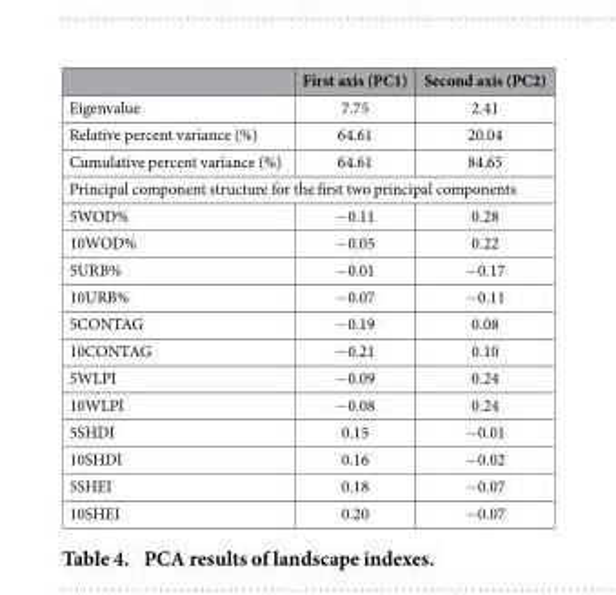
<table><thead><tr><td></td><td>First axis (PC1)</td><td>Second axis (PC2)</td></tr></thead><tbody><tr><td>Eigenvalue</td><td>7.75</td><td>2.41</td></tr><tr><td>Relative percent variance (%)</td><td>64.61</td><td>20.04</td></tr><tr><td>Cumulative percent variance (%)</td><td>64.61</td><td>84.65</td></tr><tr><td colspan="3">Principal component structure for the first two principal components</td></tr><tr><td>5WOD%</td><td>− 0.11</td><td>0.28</td></tr><tr><td>10WOD%</td><td>− 0.05</td><td>0.22</td></tr><tr><td>5URB%</td><td>− 0.01</td><td>− 0.17</td></tr><tr><td>10URB%</td><td>− 0.07</td><td>− 0.11</td></tr><tr><td>5CONTAG</td><td>− 0.19</td><td>0.08</td></tr><tr><td>10CONTAG</td><td>− 0.21</td><td>0.10</td></tr><tr><td>5WLPI</td><td>− 0.09</td><td>0.24</td></tr><tr><td>10WLPI</td><td>− 0.08</td><td>0.24</td></tr><tr><td>5SHDI</td><td>0.15</td><td>− 0.01</td></tr><tr><td>10SHDI</td><td>0.16</td><td>− 0.02</td></tr><tr><td>5SHEI</td><td>0.18</td><td>− 0.07</td></tr><tr><td>10SHEI</td><td>0.20</td><td>− 0.07</td></tr></tbody></table>